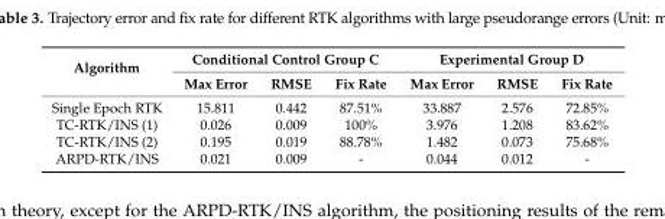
<table><thead><tr><td rowspan="2">Algorithm</td><td colspan="3">Conditional Control Group C</td><td colspan="3">Experimental Group D</td></tr><tr><td>Max Error</td><td>RMSE</td><td>Fix Rate</td><td>Max Error</td><td>RMSE</td><td>Fix Rate</td></tr></thead><tbody><tr><td>Single Epoch RTK</td><td>15.811</td><td>0.442</td><td>87.51%</td><td>33.887</td><td>2.576</td><td>72.85%</td></tr><tr><td>TC-RTK/INS (1)</td><td>0.026</td><td>0.009</td><td>100%</td><td>3.976</td><td>1.208</td><td>83.62%</td></tr><tr><td>TC-RTK/INS (2)</td><td>0.195</td><td>0.019</td><td>88.78%</td><td>1.482</td><td>0.073</td><td>75.68%</td></tr><tr><td>ARPD-RTK/INS</td><td>0.021</td><td>0.009</td><td>-</td><td>0.044</td><td>0.012</td><td>-</td></tr></tbody></table>